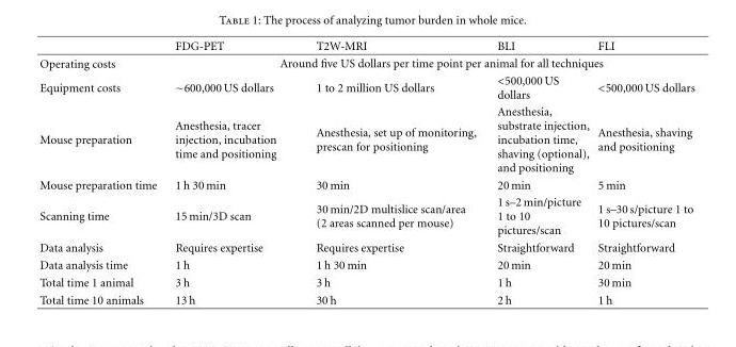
<table><thead><tr><td></td><td>FDG-PET</td><td>T2W-MRI</td><td>BLI</td><td>FLI</td></tr></thead><tbody><tr><td>Operating costs</td><td colspan="4">Around five US dollars per time point per animal for all techniques</td></tr><tr><td>Equipment costs</td><td>∼600,000 US dollars</td><td>1 to 2 million US dollars</td><td>&lt;500,000 US dollars</td><td>&lt;500,000 US dollars</td></tr><tr><td>Mouse preparation</td><td>Anesthesia, tracer injection, incubation time and positioning</td><td>Anesthesia, set up of monitoring, prescan for positioning</td><td>Anesthesia, substrate injection, incubation time, shaving (optional), and positioning</td><td>Anesthesia, shaving and positioning</td></tr><tr><td>Mouse preparation time</td><td>1 h 30 min</td><td>30 min</td><td>20 min</td><td>5 min</td></tr><tr><td>Scanning time</td><td>15 min/3D scan</td><td>30 min/2D multislice scan/area (2 areas scanned per mouse)</td><td>1 s–2 min/picture 1 to 10 pictures/scan</td><td>1 s–30 s/picture 1 to 10 pictures/scan</td></tr><tr><td>Data analysis</td><td>Requires expertise</td><td>Requires expertise</td><td>Straightforward</td><td>Straightforward</td></tr><tr><td>Data analysis time</td><td>1 h</td><td>1 h 30 min</td><td>20 min</td><td>20 min</td></tr><tr><td>Total time 1 animal</td><td>3 h</td><td>3 h</td><td>1 h</td><td>30 min</td></tr><tr><td>Total time 10 animals</td><td>13 h</td><td>30 h</td><td>2 h</td><td>1 h</td></tr></tbody></table>